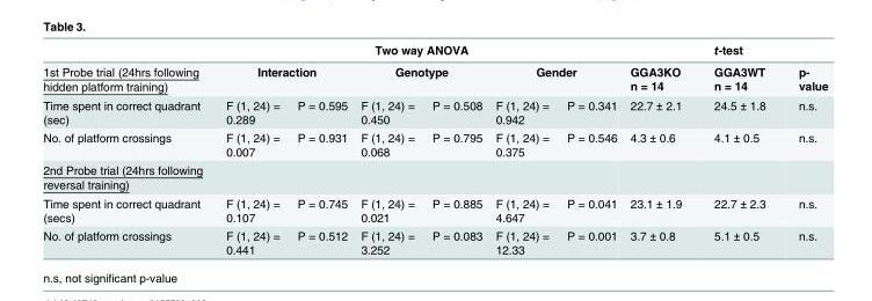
<table><thead><tr><td rowspan="3">1st Probe trial (24hrs following hidden platform training) Time spent in correct quadrant (sec)</td><td colspan="6">Two way ANOVA</td><td rowspan="3">GGA3KO n = 14 22.7 ± 2.1</td><td rowspan="3">t-test GGA3WT n = 14 24.5 ± 1.8</td><td rowspan="3">p- value n.s.</td></tr><tr><td colspan="2">Interaction</td><td colspan="2">Genotype</td><td colspan="2">Gender</td></tr><tr><td>F (1, 24) = 0.289</td><td>P = 0.595</td><td>F (1, 24) = 0.450</td><td>P = 0.508</td><td>F (1, 24) = 0.942</td><td>P = 0.341</td></tr></thead><tbody><tr><td>No. of platform crossings</td><td>F (1, 24) = 0.007</td><td>P = 0.931</td><td>F (1, 24) = 0.068</td><td>P = 0.795</td><td>F (1, 24) = 0.375</td><td>P = 0.546</td><td>4.3 ± 0.6</td><td>4.1 ± 0.5</td><td>n.s.</td></tr><tr><td colspan="10">2nd Probe trial (24hrs following reversal training)</td></tr><tr><td>Time spent in correct quadrant (secs)</td><td>F (1, 24) = 0.107</td><td>P = 0.745</td><td>F (1, 24) = 0.021</td><td>P = 0.885</td><td>F (1, 24) = 4.647</td><td>P = 0.041</td><td>23.1 ± 1.9</td><td>22.7 ± 2.3</td><td>n.s.</td></tr><tr><td>No. of platform crossings</td><td>F (1, 24) = 0.441</td><td>P = 0.512</td><td>F (1, 24) = 3.252</td><td>P = 0.083</td><td>F (1, 24) = 12.33</td><td>P = 0.001</td><td>3.7 ± 0.8</td><td>5.1 ± 0.5</td><td>n.s.</td></tr></tbody></table>